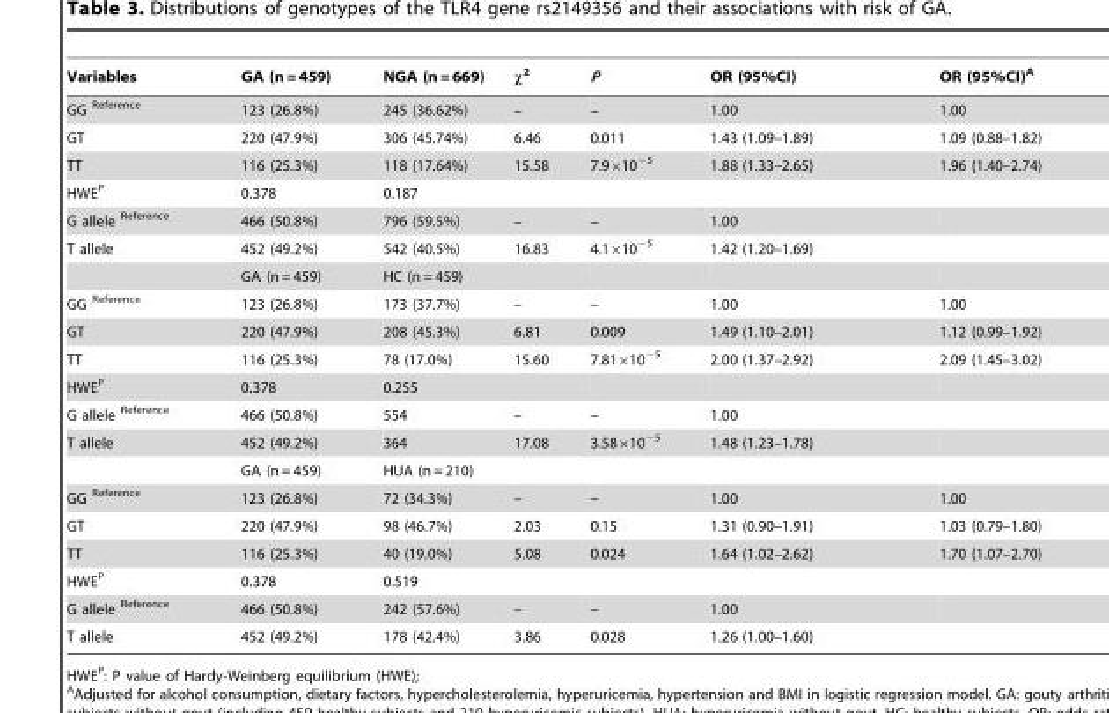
<table><thead><tr><td>Variables</td><td>GA (n = 459)</td><td>NGA (n = 669)</td><td>χ<sup>2</sup></td><td>P</td><td>OR (95%CI)</td><td>OR (95%CI)<sup>A</sup></td></tr></thead><tbody><tr><td>GG <sup>Reference</sup></td><td>123 (26.8%)</td><td>245 (36.62%)</td><td>–</td><td>–</td><td>1.00</td><td>1.00</td></tr><tr><td>GT</td><td>220 (47.9%)</td><td>306 (45.74%)</td><td>6.46</td><td>0.011</td><td>1.43 (1.09–1.89)</td><td>1.09 (0.88–1.82)</td></tr><tr><td>TT</td><td>116 (25.3%)</td><td>118 (17.64%)</td><td>15.58</td><td>7.9×10<sup>−5</sup></td><td>1.88 (1.33–2.65)</td><td>1.96 (1.40–2.74)</td></tr><tr><td>HWE<sup>P</sup></td><td>0.378</td><td>0.187</td><td></td><td></td><td></td><td></td></tr><tr><td>G allele <sup>Reference</sup></td><td>466 (50.8%)</td><td>796 (59.5%)</td><td>–</td><td>–</td><td>1.00</td><td></td></tr><tr><td rowspan="2">T allele</td><td>452 (49.2%)</td><td>542 (40.5%)</td><td>16.83</td><td>4.1×10<sup>−5</sup></td><td>1.42 (1.20–1.69)</td><td></td></tr><tr><td>GA (n = 459)</td><td>HC (n = 459)</td><td></td><td></td><td></td><td></td></tr><tr><td>GG <sup>Reference</sup></td><td>123 (26.8%)</td><td>173 (37.7%)</td><td>–</td><td>–</td><td>1.00</td><td>1.00</td></tr><tr><td>GT</td><td>220 (47.9%)</td><td>208 (45.3%)</td><td>6.81</td><td>0.009</td><td>1.49 (1.10–2.01)</td><td>1.12 (0.99–1.92)</td></tr><tr><td>TT</td><td>116 (25.3%)</td><td>78 (17.0%)</td><td>15.60</td><td>7.81×10<sup>−5</sup></td><td>2.00 (1.37–2.92)</td><td>2.09 (1.45–3.02)</td></tr><tr><td>HWE<sup>P</sup></td><td>0.378</td><td>0.255</td><td></td><td></td><td></td><td></td></tr><tr><td>G allele <sup>Reference</sup></td><td>466 (50.8%)</td><td>554</td><td>–</td><td>–</td><td>1.00</td><td></td></tr><tr><td rowspan="2">T allele</td><td>452 (49.2%)</td><td>364</td><td>17.08</td><td>3.58×10<sup>−5</sup></td><td>1.48 (1.23–1.78)</td><td></td></tr><tr><td>GA (n = 459)</td><td>HUA (n = 210)</td><td></td><td></td><td></td><td></td></tr><tr><td>GG <sup>Reference</sup></td><td>123 (26.8%)</td><td>72 (34.3%)</td><td>–</td><td>–</td><td>1.00</td><td>1.00</td></tr><tr><td>GT</td><td>220 (47.9%)</td><td>98 (46.7%)</td><td>2.03</td><td>0.15</td><td>1.31 (0.90–1.91)</td><td>1.03 (0.79–1.80)</td></tr><tr><td>TT</td><td>116 (25.3%)</td><td>40 (19.0%)</td><td>5.08</td><td>0.024</td><td>1.64 (1.02–2.62)</td><td>1.70 (1.07–2.70)</td></tr><tr><td>HWE<sup>P</sup></td><td>0.378</td><td>0.519</td><td></td><td></td><td></td><td></td></tr><tr><td>G allele <sup>Reference</sup></td><td>466 (50.8%)</td><td>242 (57.6%)</td><td>–</td><td>–</td><td>1.00</td><td></td></tr><tr><td>T allele</td><td>452 (49.2%)</td><td>178 (42.4%)</td><td>3.86</td><td>0.028</td><td>1.26 (1.00–1.60)</td><td></td></tr></tbody></table>